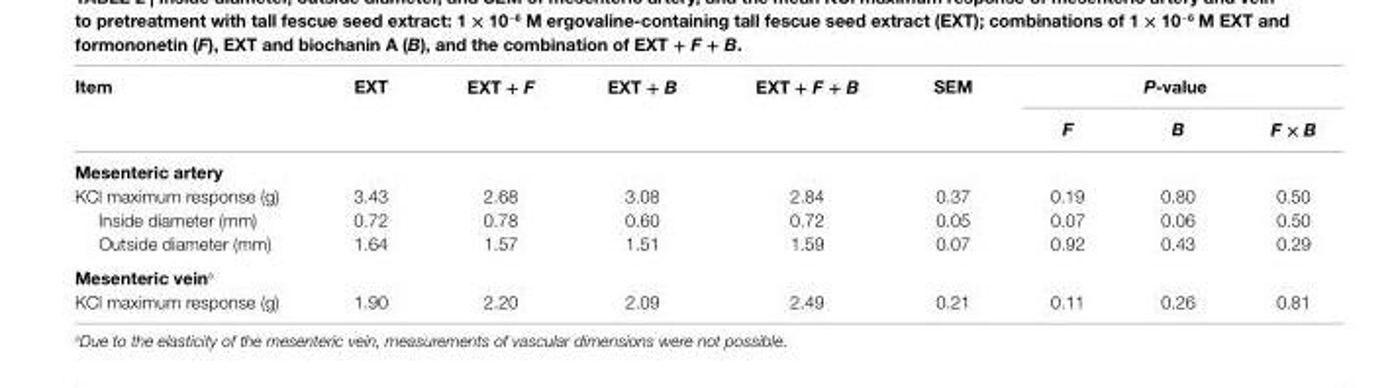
<table><thead><tr><td rowspan="2">item</td><td rowspan="2">eXT</td><td rowspan="2">eXT + F</td><td rowspan="2">eXT + B</td><td rowspan="2">eXT + F + B</td><td rowspan="2">seM</td><td colspan="3">P-value</td></tr><tr><td>F</td><td>B</td><td>F × B</td></tr></thead><tbody><tr><td colspan="9">Mesenteric artery</td></tr><tr><td>KCl maximum response (g)</td><td>3.43</td><td>2.68</td><td>3.08</td><td>2.84</td><td>0.37</td><td>0.19</td><td>0.80</td><td>0.50</td></tr><tr><td>Inside diameter (mm)</td><td>0.72</td><td>0.78</td><td>0.60</td><td>0.72</td><td>0.05</td><td>0.07</td><td>0.06</td><td>0.50</td></tr><tr><td>Outside diameter (mm)</td><td>1.64</td><td>1.57</td><td>1.51</td><td>1.59</td><td>0.07</td><td>0.92</td><td>0.43</td><td>0.29</td></tr><tr><td colspan="9">Mesenteric vein<sup>a</sup></td></tr><tr><td>KCl maximum response (g)</td><td>1.90</td><td>2.20</td><td>2.09</td><td>2.49</td><td>0.21</td><td>0.11</td><td>0.26</td><td>0.81</td></tr></tbody></table>